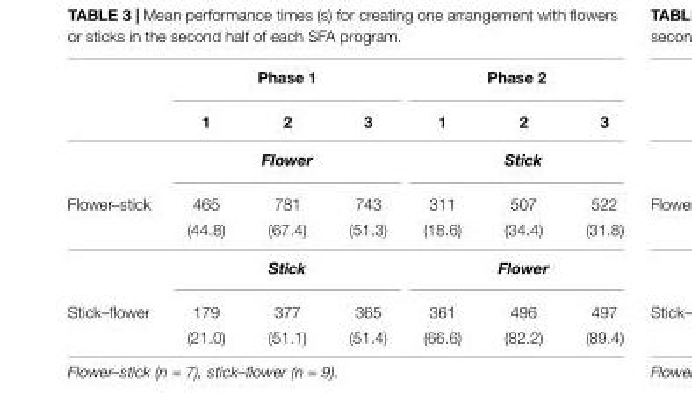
<table><thead><tr><td rowspan="2"></td><td colspan="3">Phase 1</td><td colspan="3">Phase 2</td></tr><tr><td>1</td><td>2</td><td>3</td><td>1</td><td>2</td><td>3</td></tr></thead><tbody><tr><td></td><td colspan="3">Flower</td><td colspan="3">Stick</td></tr><tr><td rowspan="3">Flower–stick</td><td>465</td><td>781</td><td>743</td><td>311</td><td>507</td><td>522</td></tr><tr><td>(44.8)</td><td>(67.4)</td><td>(51.3)</td><td>(18.6)</td><td>(34.4)</td><td>(31.8)</td></tr><tr><td colspan="3">Stick</td><td colspan="3">Flower</td></tr><tr><td rowspan="2">Stick–flower</td><td>179</td><td>377</td><td>365</td><td>361</td><td>496</td><td>497</td></tr><tr><td>(21.0)</td><td>(51.1)</td><td>(51.4)</td><td>(66.6)</td><td>(82.2)</td><td>(89.4)</td></tr></tbody></table>